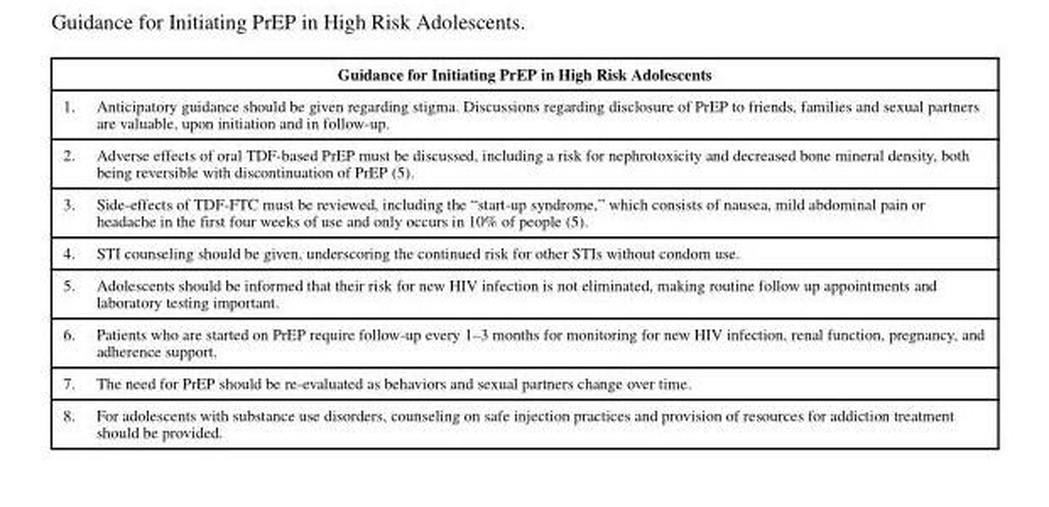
<table><thead><tr><td colspan="2">Guidance for Initiating PrEP in High Risk Adolescents</td></tr><tr><td>1.</td><td>Anticipatory guidance should be given regarding stigma. Discussions regarding disclosure of PrEP to friends, families and sexual partners are valuable, upon initiation and in follow-up.</td></tr></thead><tbody><tr><td>2.</td><td>Adverse effects of oral TDF-based PrEP must be discussed, including a risk for nephrotoxicity and decreased bone mineral density, both being reversible with discontinuation of PrEP (5).</td></tr><tr><td>3.</td><td>Side-effects of TDF-FTC must be reviewed, including the “start-up syndrome,” which consists of nausea, mild abdominal pain or headache in the first four weeks of use and only occurs in 10% of people (5).</td></tr><tr><td>4.</td><td>STI counseling should be given, underscoring the continued risk for other STIs without condom use.</td></tr><tr><td>5.</td><td>Adolescents should be informed that their risk for new HIV infection is not eliminated, making routine follow up appointments and laboratory testing important.</td></tr><tr><td>6.</td><td>Patients who are started on PrEP require follow-up every 1–3 months for monitoring for new HIV infection, renal function, pregnancy, and adherence support.</td></tr><tr><td>7.</td><td>The need for PrEP should be re-evaluated as behaviors and sexual partners change over time.</td></tr><tr><td>8.</td><td>For adolescents with substance use disorders, counseling on safe injection practices and provision of resources for addiction treatment should be provided.</td></tr></tbody></table>